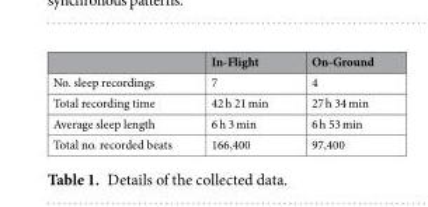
<table><thead><tr><td></td><td>In-Flight</td><td>On-Ground</td></tr></thead><tbody><tr><td>No. sleep recordings</td><td>7</td><td>4</td></tr><tr><td>Total recording time</td><td>42 h 21 min</td><td>27 h 34 min</td></tr><tr><td>Average sleep length</td><td>6 h 3 min</td><td>6 h 53 min</td></tr><tr><td>Total no. recorded beats</td><td>166,400</td><td>97,400</td></tr></tbody></table>